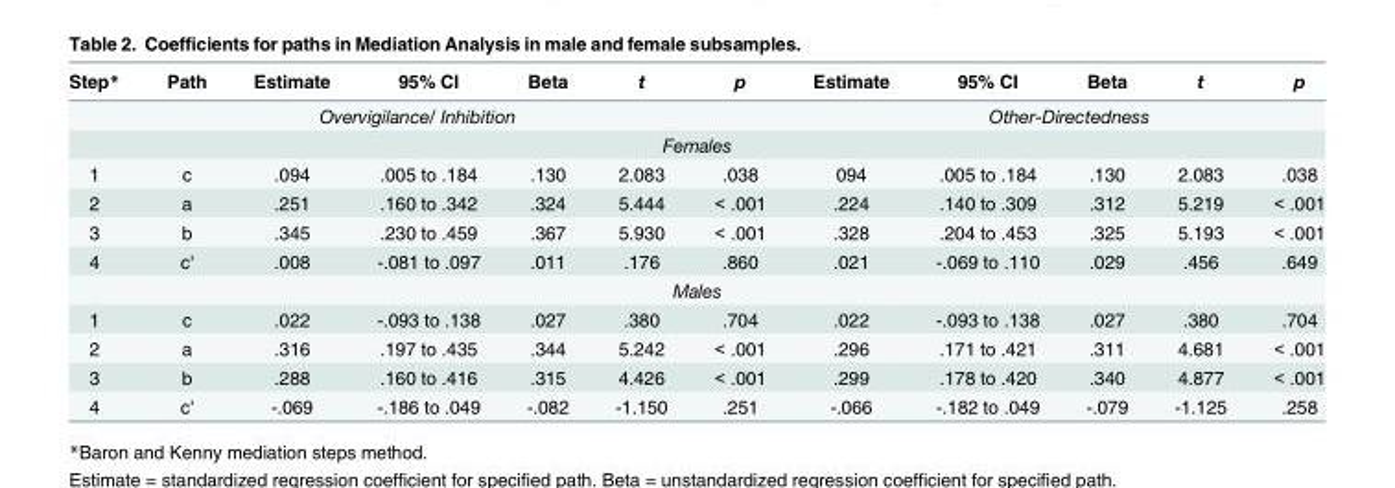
<table><thead><tr><td>Step*</td><td>Path</td><td>Estimate</td><td>95% CI</td><td>Beta</td><td>t</td><td>p</td><td>Estimate</td><td>95% CI</td><td>Beta</td><td>t</td><td>p</td></tr></thead><tbody><tr><td colspan="7">Overvigilance/ Inhibition</td><td colspan="5">Other-Directedness</td></tr><tr><td colspan="12">Females</td></tr><tr><td>1</td><td>c</td><td>.094</td><td>.005 to .184</td><td>.130</td><td>2.083</td><td>.038</td><td>094</td><td>.005 to .184</td><td>.130</td><td>2.083</td><td>.038</td></tr><tr><td>2</td><td>a</td><td>.251</td><td>.160 to .342</td><td>.324</td><td>5.444</td><td>&lt; .001</td><td>.224</td><td>.140 to .309</td><td>.312</td><td>5.219</td><td>&lt; .001</td></tr><tr><td>3</td><td>b</td><td>.345</td><td>.230 to .459</td><td>.367</td><td>5.930</td><td>&lt; .001</td><td>.328</td><td>.204 to .453</td><td>.325</td><td>5.193</td><td>&lt; .001</td></tr><tr><td>4</td><td>c&#x27;</td><td>.008</td><td>-.081 to .097</td><td>.011</td><td>.176</td><td>.860</td><td>.021</td><td>-.069 to .110</td><td>.029</td><td>.456</td><td>.649</td></tr><tr><td colspan="12">Males</td></tr><tr><td>1</td><td>c</td><td>.022</td><td>-.093 to .138</td><td>.027</td><td>.380</td><td>.704</td><td>.022</td><td>-.093 to .138</td><td>.027</td><td>.380</td><td>.704</td></tr><tr><td>2</td><td>a</td><td>.316</td><td>.197 to .435</td><td>.344</td><td>5.242</td><td>&lt; .001</td><td>.296</td><td>.171 to .421</td><td>.311</td><td>4.681</td><td>&lt; .001</td></tr><tr><td>3</td><td>b</td><td>.288</td><td>.160 to .416</td><td>.315</td><td>4.426</td><td>&lt; .001</td><td>.299</td><td>.178 to .420</td><td>.340</td><td>4.877</td><td>&lt; .001</td></tr><tr><td>4</td><td>c&#x27;</td><td>-.069</td><td>-.186 to .049</td><td>-.082</td><td>-1.150</td><td>.251</td><td>-.066</td><td>-.182 to .049</td><td>-.079</td><td>-1.125</td><td>.258</td></tr></tbody></table>